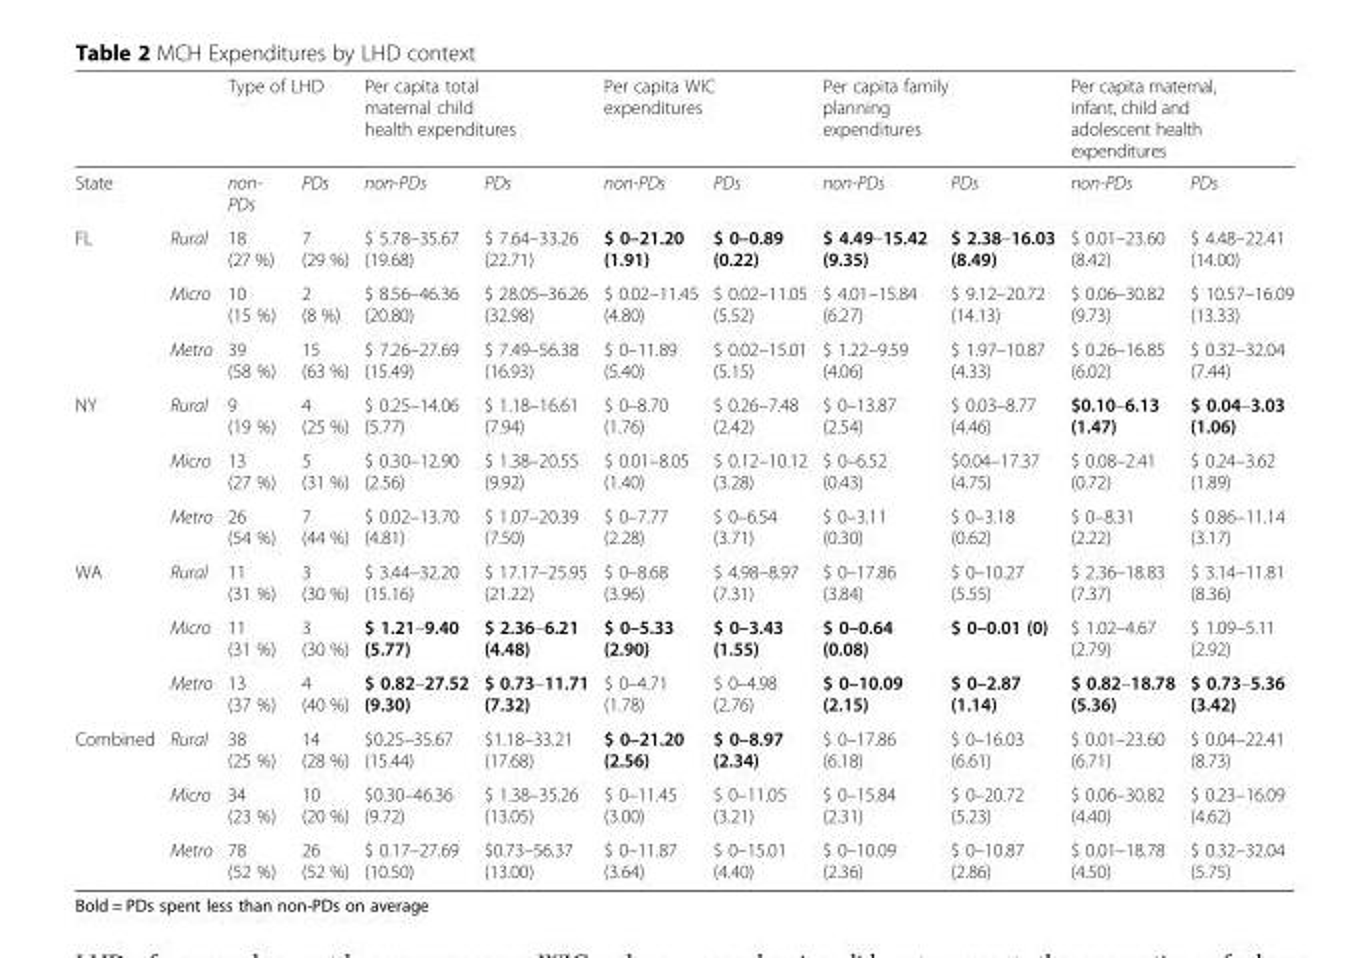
<table><thead><tr><td rowspan="2">State</td><td rowspan="2"></td><td colspan="2">Type of LHD</td><td colspan="2">Per capita total maternal child health expenditures</td><td colspan="2">Per capita WIC expenditures</td><td colspan="2">Per capita family planning expenditures</td><td colspan="2">Per capita maternal, infant, child and adolescent health expenditures</td></tr><tr><td>non- PDs</td><td>PDs</td><td>non-PDs</td><td>PDs</td><td>non-PDs</td><td>PDs</td><td>non-PDs</td><td>PDs</td><td>non-PDs</td><td>PDs</td></tr></thead><tbody><tr><td rowspan="3">FL</td><td>Rural</td><td>18 (27 %)</td><td>7 (29 %)</td><td>$ 5.78–35.67 (19.68)</td><td>$ 7.64–33.26 (22.71)</td><td>$ 0–21.20 (1.91)</td><td>$ 0–0.89 (0.22)</td><td>$ 4.49–15.42 (9.35)</td><td>$ 2.38–16.03 (8.49)</td><td>$ 0.01–23.60 (8.42)</td><td>$ 4.48–22.41 (14.00)</td></tr><tr><td>Micro</td><td>10 (15 %)</td><td>2 (8 %)</td><td>$ 8.56–46.36 (20.80)</td><td>$ 28.05–36.26 (32.98)</td><td>$ 0.02–11.45 (4.80)</td><td>$ 0.02–11.05 (5.52)</td><td>$ 4.01–15.84 (6.27)</td><td>$ 9.12–20.72 (14.13)</td><td>$ 0.06–30.82 (9.73)</td><td>$ 10.57–16.09 (13.33)</td></tr><tr><td>Metro</td><td>39 (58 %)</td><td>15 (63 %)</td><td>$ 7.26–27.69 (15.49)</td><td>$ 7.49–56.38 (16.93)</td><td>$ 0–11.89 (5.40)</td><td>$ 0.02–15.01 (5.15)</td><td>$ 1.22–9.59 (4.06)</td><td>$ 1.97–10.87 (4.33)</td><td>$ 0.26–16.85 (6.02)</td><td>$ 0.32–32.04 (7.44)</td></tr><tr><td rowspan="3">NY</td><td>Rural</td><td>9 (19 %)</td><td>4 (25 %)</td><td>$ 0.25–14.06 (5.77)</td><td>$ 1.18–16.61 (7.94)</td><td>$ 0–8.70 (1.76)</td><td>$ 0.26–7.48 (2.42)</td><td>$ 0–13.87 (2.54)</td><td>$ 0.03–8.77 (4.46)</td><td>$0.10–6.13 (1.47)</td><td>$ 0.04–3.03 (1.06)</td></tr><tr><td>Micro</td><td>13 (27 %)</td><td>5 (31 %)</td><td>$ 0.30–12.90 (2.56)</td><td>$ 1.38–20.55 (9.92)</td><td>$ 0.01–8.05 (1.40)</td><td>$ 0.12–10.12 (3.28)</td><td>$ 0–6.52 (0.43)</td><td>$0.04–17.37 (4.75)</td><td>$ 0.08–2.41 (0.72)</td><td>$ 0.24–3.62 (1.89)</td></tr><tr><td>Metro</td><td>26 (54 %)</td><td>7 (44 %)</td><td>$ 0.02–13.70 (4.81)</td><td>$ 1.07–20.39 (7.50)</td><td>$ 0–7.77 (2.28)</td><td>$ 0–6.54 (3.71)</td><td>$ 0–3.11 (0.30)</td><td>$ 0–3.18 (0.62)</td><td>$ 0–8.31 (2.22)</td><td>$ 0.86–11.14 (3.17)</td></tr><tr><td rowspan="3">WA</td><td>Rural</td><td>11 (31 %)</td><td>3 (30 %)</td><td>$ 3.44–32.20 (15.16)</td><td>$ 17.17–25.95 (21.22)</td><td>$ 0–8.68 (3.96)</td><td>$ 4.98–8.97 (7.31)</td><td>$ 0–17.86 (3.84)</td><td>$ 0–10.27 (5.55)</td><td>$ 2.36–18.83 (7.37)</td><td>$ 3.14–11.81 (8.36)</td></tr><tr><td>Micro</td><td>11 (31 %)</td><td>3 (30 %)</td><td>$ 1.21–9.40 (5.77)</td><td>$ 2.36–6.21 (4.48)</td><td>$ 0–5.33 (2.90)</td><td>$ 0–3.43 (1.55)</td><td>$ 0–0.64 (0.08)</td><td>$ 0–0.01 (0)</td><td>$ 1.02–4.67 (2.79)</td><td>$ 1.09–5.11 (2.92)</td></tr><tr><td>Metro</td><td>13 (37 %)</td><td>4 (40 %)</td><td>$ 0.82–27.52 (9.30)</td><td>$ 0.73–11.71 (7.32)</td><td>$ 0–4.71 (1.78)</td><td>$ 0–4.98 (2.76)</td><td>$ 0–10.09 (2.15)</td><td>$ 0–2.87 (1.14)</td><td>$ 0.82–18.78 (5.36)</td><td>$ 0.73–5.36 (3.42)</td></tr><tr><td rowspan="3">Combined</td><td>Rural</td><td>38 (25 %)</td><td>14 (28 %)</td><td>$0.25–35.67 (15.44)</td><td>$1.18–33.21 (17.68)</td><td>$ 0–21.20 (2.56)</td><td>$ 0–8.97 (2.34)</td><td>$ 0–17.86 (6.18)</td><td>$ 0–16.03 (6.61)</td><td>$ 0.01–23.60 (6.71)</td><td>$ 0.04–22.41 (8.73)</td></tr><tr><td>Micro</td><td>34 (23 %)</td><td>10 (20 %)</td><td>$0.30–46.36 (9.72)</td><td>$ 1.38–35.26 (13.05)</td><td>$ 0–11.45 (3.00)</td><td>$ 0–11.05 (3.21)</td><td>$ 0–15.84 (2.31)</td><td>$ 0–20.72 (5.23)</td><td>$ 0.06–30.82 (4.40)</td><td>$ 0.23–16.09 (4.62)</td></tr><tr><td>Metro</td><td>78 (52 %)</td><td>26 (52 %)</td><td>$ 0.17–27.69 (10.50)</td><td>$0.73–56.37 (13.00)</td><td>$ 0–11.87 (3.64)</td><td>$ 0–15.01 (4.40)</td><td>$ 0–10.09 (2.36)</td><td>$ 0–10.87 (2.86)</td><td>$ 0.01–18.78 (4.50)</td><td>$ 0.32–32.04 (5.75)</td></tr></tbody></table>